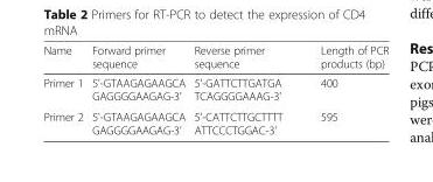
<table><thead><tr><td>Name</td><td>Forward primer sequence</td><td>Reverse primer sequence</td><td>Length of PCR products (bp)</td></tr></thead><tbody><tr><td>Primer 1</td><td>5&#x27;-GTAAGAGAAGCA GAGGGGAAGAG-3&#x27;</td><td>5&#x27;-GATTCTTGATGA TCAGGGGAAAG-3&#x27;</td><td>400</td></tr><tr><td>Primer 2</td><td>5&#x27;-GTAAGAGAAGCA GAGGGGAAGAG-3&#x27;</td><td>5&#x27;-CATTCTTGCTTTT ATTCCCTGGAC-3&#x27;</td><td>595</td></tr></tbody></table>